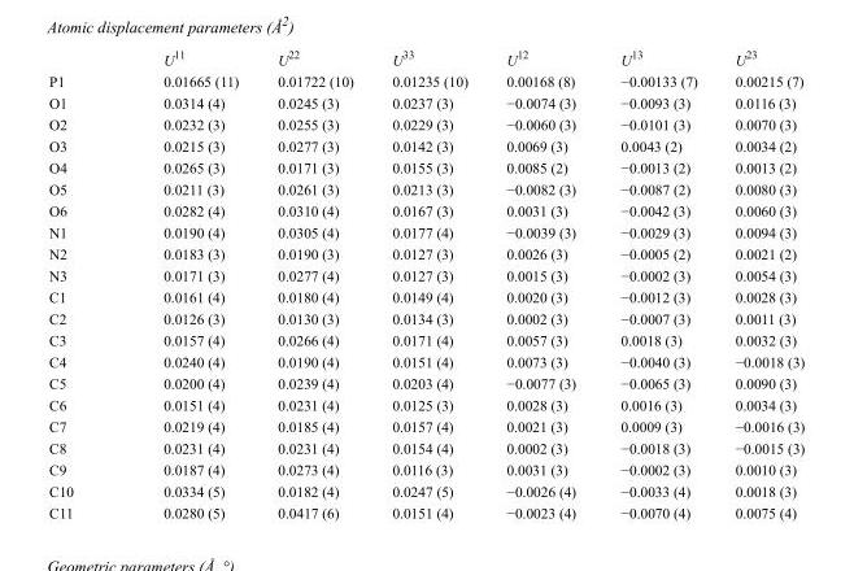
<table><thead><tr><td></td><td>U<sup>11</sup></td><td>U<sup>22</sup></td><td>U<sup>33</sup></td><td>U<sup>12</sup></td><td>U<sup>13</sup></td><td>U<sup>23</sup></td></tr></thead><tbody><tr><td>P1</td><td>0.01665 (11)</td><td>0.01722 (10)</td><td>0.01235 (10)</td><td>0.00168 (8)</td><td>−0.00133 (7)</td><td>0.00215 (7)</td></tr><tr><td>O1</td><td>0.0314 (4)</td><td>0.0245 (3)</td><td>0.0237 (3)</td><td>−0.0074 (3)</td><td>−0.0093 (3)</td><td>0.0116 (3)</td></tr><tr><td>O2</td><td>0.0232 (3)</td><td>0.0255 (3)</td><td>0.0229 (3)</td><td>−0.0060 (3)</td><td>−0.0101 (3)</td><td>0.0070 (3)</td></tr><tr><td>O3</td><td>0.0215 (3)</td><td>0.0277 (3)</td><td>0.0142 (3)</td><td>0.0069 (3)</td><td>0.0043 (2)</td><td>0.0034 (2)</td></tr><tr><td>O4</td><td>0.0265 (3)</td><td>0.0171 (3)</td><td>0.0155 (3)</td><td>0.0085 (2)</td><td>−0.0013 (2)</td><td>0.0013 (2)</td></tr><tr><td>O5</td><td>0.0211 (3)</td><td>0.0261 (3)</td><td>0.0213 (3)</td><td>−0.0082 (3)</td><td>−0.0087 (2)</td><td>0.0080 (3)</td></tr><tr><td>O6</td><td>0.0282 (4)</td><td>0.0310 (4)</td><td>0.0167 (3)</td><td>0.0031 (3)</td><td>−0.0042 (3)</td><td>0.0060 (3)</td></tr><tr><td>N1</td><td>0.0190 (4)</td><td>0.0305 (4)</td><td>0.0177 (4)</td><td>−0.0039 (3)</td><td>−0.0029 (3)</td><td>0.0094 (3)</td></tr><tr><td>N2</td><td>0.0183 (3)</td><td>0.0190 (3)</td><td>0.0127 (3)</td><td>0.0026 (3)</td><td>−0.0005 (2)</td><td>0.0021 (2)</td></tr><tr><td>N3</td><td>0.0171 (3)</td><td>0.0277 (4)</td><td>0.0127 (3)</td><td>0.0015 (3)</td><td>−0.0002 (3)</td><td>0.0054 (3)</td></tr><tr><td>C1</td><td>0.0161 (4)</td><td>0.0180 (4)</td><td>0.0149 (4)</td><td>0.0020 (3)</td><td>−0.0012 (3)</td><td>0.0028 (3)</td></tr><tr><td>C2</td><td>0.0126 (3)</td><td>0.0130 (3)</td><td>0.0134 (3)</td><td>0.0002 (3)</td><td>−0.0007 (3)</td><td>0.0011 (3)</td></tr><tr><td>C3</td><td>0.0157 (4)</td><td>0.0266 (4)</td><td>0.0171 (4)</td><td>0.0057 (3)</td><td>0.0018 (3)</td><td>0.0032 (3)</td></tr><tr><td>C4</td><td>0.0240 (4)</td><td>0.0190 (4)</td><td>0.0151 (4)</td><td>0.0073 (3)</td><td>−0.0040 (3)</td><td>−0.0018 (3)</td></tr><tr><td>C5</td><td>0.0200 (4)</td><td>0.0239 (4)</td><td>0.0203 (4)</td><td>−0.0077 (3)</td><td>−0.0065 (3)</td><td>0.0090 (3)</td></tr><tr><td>C6</td><td>0.0151 (4)</td><td>0.0231 (4)</td><td>0.0125 (3)</td><td>0.0028 (3)</td><td>0.0016 (3)</td><td>0.0034 (3)</td></tr><tr><td>C7</td><td>0.0219 (4)</td><td>0.0185 (4)</td><td>0.0157 (4)</td><td>0.0021 (3)</td><td>0.0009 (3)</td><td>−0.0016 (3)</td></tr><tr><td>C8</td><td>0.0231 (4)</td><td>0.0231 (4)</td><td>0.0154 (4)</td><td>0.0002 (3)</td><td>−0.0018 (3)</td><td>−0.0015 (3)</td></tr><tr><td>C9</td><td>0.0187 (4)</td><td>0.0273 (4)</td><td>0.0116 (3)</td><td>0.0031 (3)</td><td>−0.0002 (3)</td><td>0.0010 (3)</td></tr><tr><td>C10</td><td>0.0334 (5)</td><td>0.0182 (4)</td><td>0.0247 (5)</td><td>−0.0026 (4)</td><td>−0.0033 (4)</td><td>0.0018 (3)</td></tr><tr><td>C11</td><td>0.0280 (5)</td><td>0.0417 (6)</td><td>0.0151 (4)</td><td>−0.0023 (4)</td><td>−0.0070 (4)</td><td>0.0075 (4)</td></tr></tbody></table>